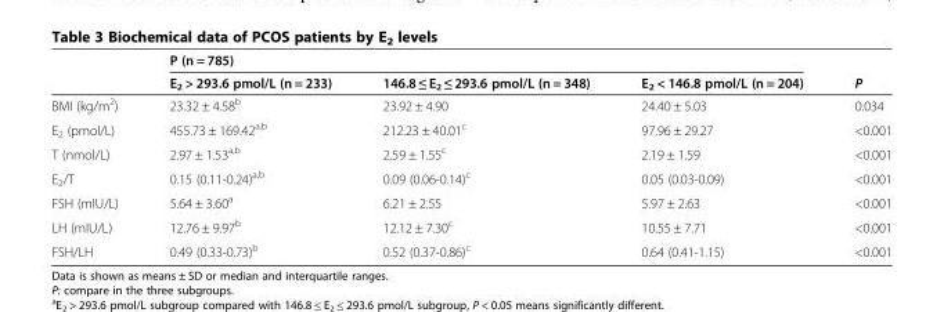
<table><thead><tr><td rowspan="2"></td><td colspan="3">P (n = 785)</td><td rowspan="2">P</td></tr><tr><td>E<sub>2</sub> &gt; 293.6 pmol/L (n = 233)</td><td>146.8 ≤ E<sub>2</sub> ≤ 293.6 pmol/L (n = 348)</td><td>E<sub>2</sub> &lt; 146.8 pmol/L (n = 204)</td></tr></thead><tbody><tr><td>BMI (kg/m<sup>2</sup>)</td><td>23.32 ± 4.58<sup>b</sup></td><td>23.92 ± 4.90</td><td>24.40 ± 5.03</td><td>0.034</td></tr><tr><td>E<sub>2</sub> (pmol/L)</td><td>455.73 ± 169.42<sup>a,b</sup></td><td>212.23 ± 40.01<sup>c</sup></td><td>97.96 ± 29.27</td><td>&lt;0.001</td></tr><tr><td>T (nmol/L)</td><td>2.97 ± 1.53<sup>a,b</sup></td><td>2.59 ± 1.55<sup>c</sup></td><td>2.19 ± 1.59</td><td>&lt;0.001</td></tr><tr><td>E<sub>2</sub>/T</td><td>0.15 (0.11-0.24)<sup>a,b</sup></td><td>0.09 (0.06-0.14)<sup>c</sup></td><td>0.05 (0.03-0.09)</td><td>&lt;0.001</td></tr><tr><td>FSH (mIU/L)</td><td>5.64 ± 3.60<sup>a</sup></td><td>6.21 ± 2.55</td><td>5.97 ± 2.63</td><td>&lt;0.001</td></tr><tr><td>LH (mIU/L)</td><td>12.76 ± 9.97<sup>b</sup></td><td>12.12 ± 7.30<sup>c</sup></td><td>10.55 ± 7.71</td><td>&lt;0.001</td></tr><tr><td>FSH/LH</td><td>0.49 (0.33-0.73)<sup>b</sup></td><td>0.52 (0.37-0.86)<sup>c</sup></td><td>0.64 (0.41-1.15)</td><td>&lt;0.001</td></tr></tbody></table>